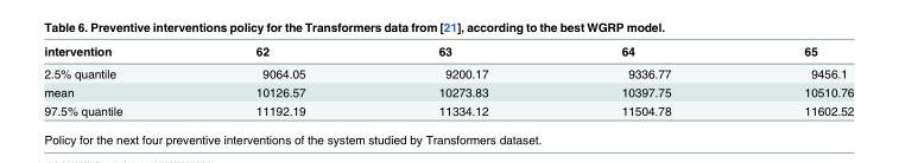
<table><thead><tr><td>intervention</td><td>62</td><td>63</td><td>64</td><td>65</td></tr></thead><tbody><tr><td>2.5% quantile</td><td>9064.05</td><td>9200.17</td><td>9336.77</td><td>9456.1</td></tr><tr><td>mean</td><td>10126.57</td><td>10273.83</td><td>10397.75</td><td>10510.76</td></tr><tr><td>97.5% quantile</td><td>11192.19</td><td>11334.12</td><td>11504.78</td><td>11602.52</td></tr></tbody></table>